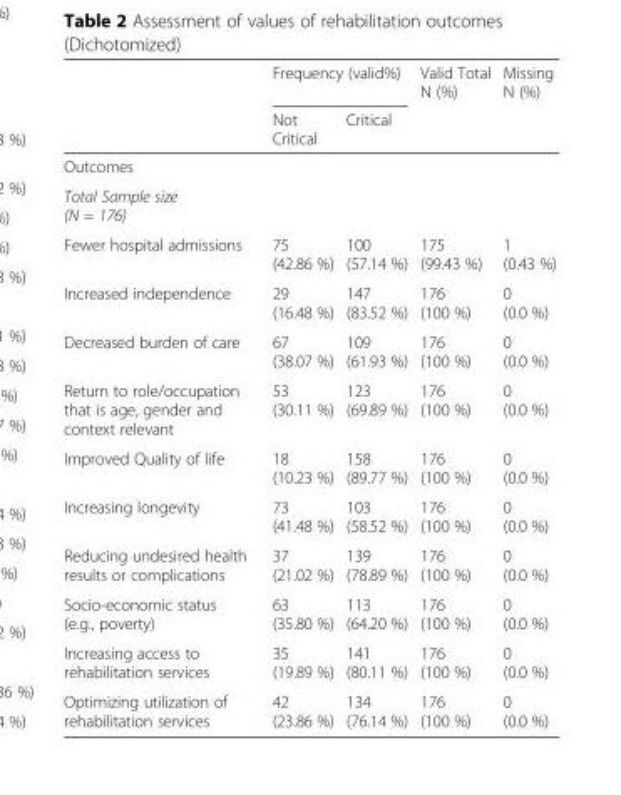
<table><thead><tr><td rowspan="2"></td><td colspan="2">Frequency (valid%)</td><td rowspan="2">Valid Total N (%)</td><td rowspan="2">Missing N (%)</td></tr><tr><td>Not Critical</td><td>Critical</td></tr></thead><tbody><tr><td colspan="5">Outcomes</td></tr><tr><td colspan="5">Total Sample size (N = 176)</td></tr><tr><td>Fewer hospital admissions</td><td>75 (42.86 %)</td><td>100 (57.14 %)</td><td>175 (99.43 %)</td><td>1 (0.43 %)</td></tr><tr><td>Increased independence</td><td>29 (16.48 %)</td><td>147 (83.52 %)</td><td>176 (100 %)</td><td>0 (0.0 %)</td></tr><tr><td>Decreased burden of care</td><td>67 (38.07 %)</td><td>109 (61.93 %)</td><td>176 (100 %)</td><td>0 (0.0 %)</td></tr><tr><td>Return to role/occupation that is age, gender and context relevant</td><td>53 (30.11 %)</td><td>123 (69.89 %)</td><td>176 (100 %)</td><td>0 (0.0 %)</td></tr><tr><td>Improved Quality of life</td><td>18 (10.23 %)</td><td>158 (89.77 %)</td><td>176 (100 %)</td><td>0 (0.0 %)</td></tr><tr><td>Increasing longevity</td><td>73 (41.48 %)</td><td>103 (58.52 %)</td><td>176 (100 %)</td><td>0 (0.0 %)</td></tr><tr><td>Reducing undesired health results or complications</td><td>37 (21.02 %)</td><td>139 (78.89 %)</td><td>176 (100 %)</td><td>0 (0.0 %)</td></tr><tr><td>Socio-economic status (e.g., poverty)</td><td>63 (35.80 %)</td><td>113 (64.20 %)</td><td>176 (100 %)</td><td>0 (0.0 %)</td></tr><tr><td>Increasing access to rehabilitation services</td><td>35 (19.89 %)</td><td>141 (80.11 %)</td><td>176 (100 %)</td><td>0 (0.0 %)</td></tr><tr><td>Optimizing utilization of rehabilitation services</td><td>42 (23.86 %)</td><td>134 (76.14 %)</td><td>176 (100 %)</td><td>0 (0.0 %)</td></tr></tbody></table>